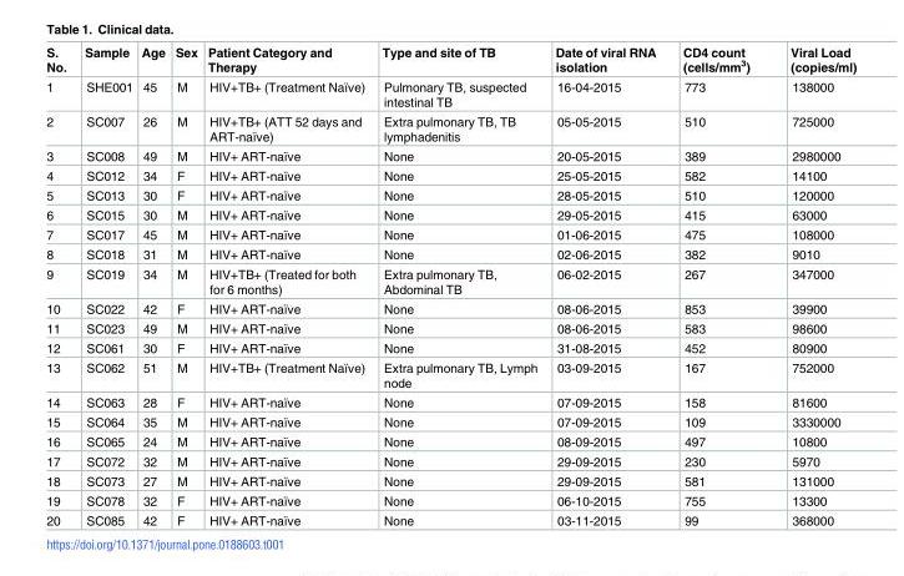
<table><thead><tr><td>S. No.</td><td>Sample</td><td>Age</td><td>Sex</td><td>Patient Category and Therapy</td><td>Type and site of TB</td><td>Date of viral RNA isolation</td><td>CD4 count (cells/mm<sup>3</sup>)</td><td>Viral Load (copies/ml)</td></tr></thead><tbody><tr><td>1</td><td>SHE001</td><td>45</td><td>M</td><td>HIV+TB+ (Treatment Naïve)</td><td>Pulmonary TB, suspected intestinal TB</td><td>16-04-2015</td><td>773</td><td>138000</td></tr><tr><td>2</td><td>SC007</td><td>26</td><td>M</td><td>HIV+TB+ (ATT 52 days and ART-naïve)</td><td>Extra pulmonary TB, TB lymphadenitis</td><td>05-05-2015</td><td>510</td><td>725000</td></tr><tr><td>3</td><td>SC008</td><td>49</td><td>M</td><td>HIV+ ART-naïve</td><td>None</td><td>20-05-2015</td><td>389</td><td>2980000</td></tr><tr><td>4</td><td>SC012</td><td>34</td><td>F</td><td>HIV+ ART-naïve</td><td>None</td><td>25-05-2015</td><td>582</td><td>14100</td></tr><tr><td>5</td><td>SC013</td><td>30</td><td>F</td><td>HIV+ ART-naïve</td><td>None</td><td>28-05-2015</td><td>510</td><td>120000</td></tr><tr><td>6</td><td>SC015</td><td>30</td><td>M</td><td>HIV+ ART-naïve</td><td>None</td><td>29-05-2015</td><td>415</td><td>63000</td></tr><tr><td>7</td><td>SC017</td><td>45</td><td>M</td><td>HIV+ ART-naïve</td><td>None</td><td>01-06-2015</td><td>475</td><td>108000</td></tr><tr><td>8</td><td>SC018</td><td>31</td><td>M</td><td>HIV+ ART-naïve</td><td>None</td><td>02-06-2015</td><td>382</td><td>9010</td></tr><tr><td>9</td><td>SC019</td><td>34</td><td>M</td><td>HIV+TB+ (Treated for both for 6 months)</td><td>Extra pulmonary TB, Abdominal TB</td><td>06-02-2015</td><td>267</td><td>347000</td></tr><tr><td>10</td><td>SC022</td><td>42</td><td>F</td><td>HIV+ ART-naïve</td><td>None</td><td>08-06-2015</td><td>853</td><td>39900</td></tr><tr><td>11</td><td>SC023</td><td>49</td><td>M</td><td>HIV+ ART-naïve</td><td>None</td><td>08-06-2015</td><td>583</td><td>98600</td></tr><tr><td>12</td><td>SC061</td><td>30</td><td>F</td><td>HIV+ ART-naïve</td><td>None</td><td>31-08-2015</td><td>452</td><td>80900</td></tr><tr><td>13</td><td>SC062</td><td>51</td><td>M</td><td>HIV+TB+ (Treatment Naïve)</td><td>Extra pulmonary TB, Lymph node</td><td>03-09-2015</td><td>167</td><td>752000</td></tr><tr><td>14</td><td>SC063</td><td>28</td><td>F</td><td>HIV+ ART-naïve</td><td>None</td><td>07-09-2015</td><td>158</td><td>81600</td></tr><tr><td>15</td><td>SC064</td><td>35</td><td>M</td><td>HIV+ ART-naïve</td><td>None</td><td>07-09-2015</td><td>109</td><td>3330000</td></tr><tr><td>16</td><td>SC065</td><td>24</td><td>M</td><td>HIV+ ART-naïve</td><td>None</td><td>08-09-2015</td><td>497</td><td>10800</td></tr><tr><td>17</td><td>SC072</td><td>32</td><td>M</td><td>HIV+ ART-naïve</td><td>None</td><td>29-09-2015</td><td>230</td><td>5970</td></tr><tr><td>18</td><td>SC073</td><td>27</td><td>M</td><td>HIV+ ART-naïve</td><td>None</td><td>29-09-2015</td><td>581</td><td>131000</td></tr><tr><td>19</td><td>SC078</td><td>32</td><td>F</td><td>HIV+ ART-naïve</td><td>None</td><td>06-10-2015</td><td>755</td><td>13300</td></tr><tr><td>20</td><td>SC085</td><td>42</td><td>F</td><td>HIV+ ART-naïve</td><td>None</td><td>03-11-2015</td><td>99</td><td>368000</td></tr></tbody></table>